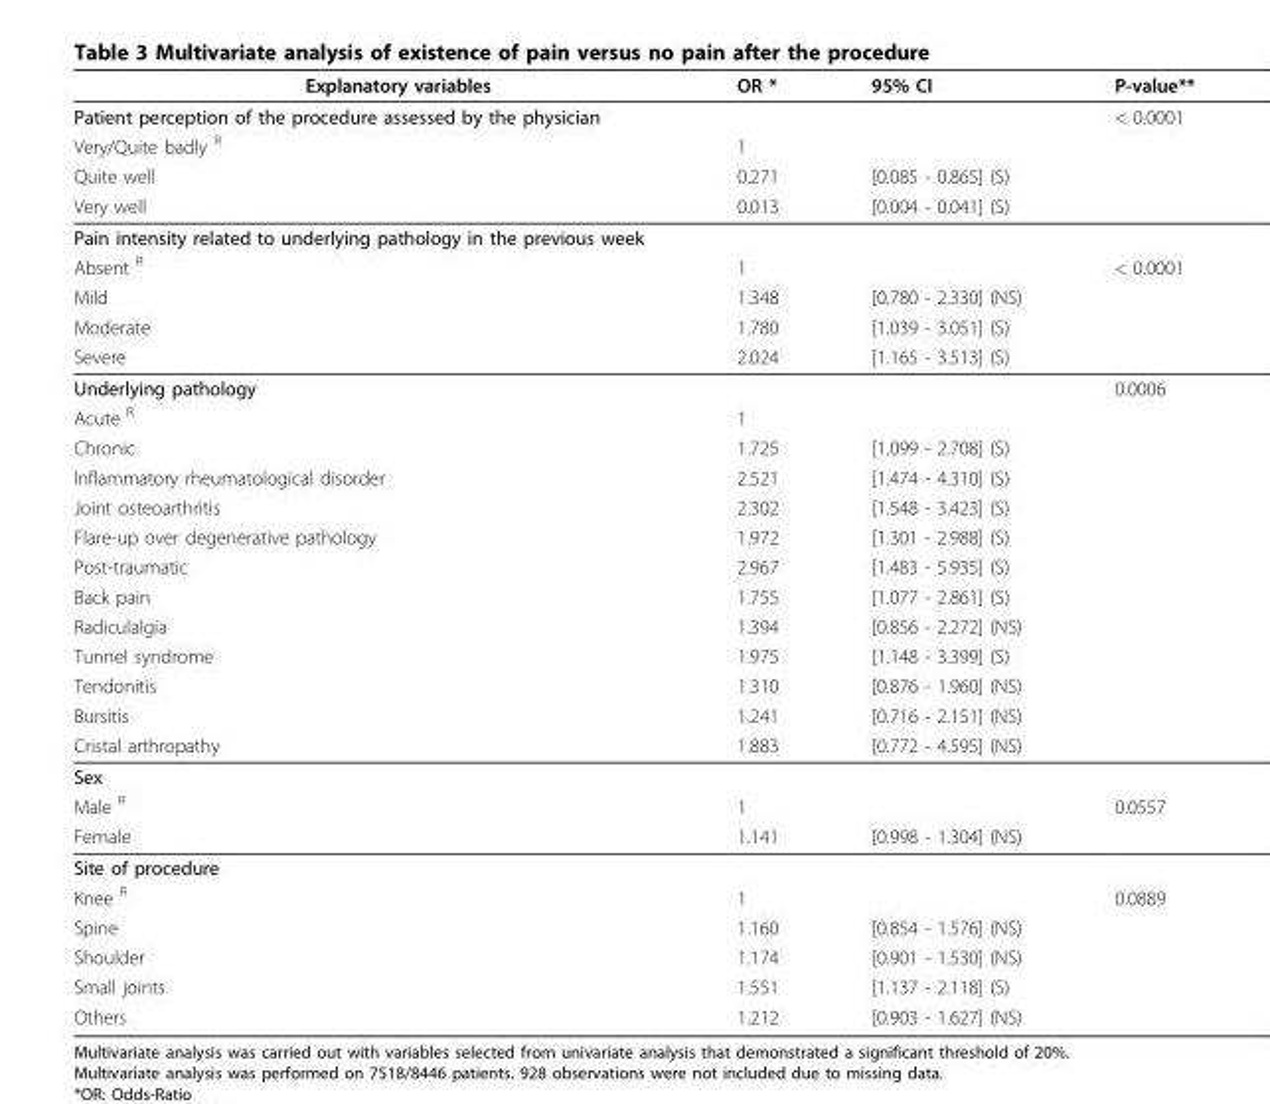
<table><thead><tr><td>Explanatory variables</td><td>OR *</td><td>95% CI</td><td>P-value**</td></tr></thead><tbody><tr><td>Patient perception of the procedure assessed by the physician</td><td></td><td></td><td>&lt; 0.0001</td></tr><tr><td>Very/Quite badly <sup>R</sup></td><td>1</td><td></td><td></td></tr><tr><td>Quite well</td><td>0.271</td><td>[0.085 - 0.865] (S)</td><td></td></tr><tr><td>Very well</td><td>0.013</td><td>[0.004 - 0.041] (S)</td><td></td></tr><tr><td colspan="4">Pain intensity related to underlying pathology in the previous week</td></tr><tr><td>Absent <sup>R</sup></td><td>1</td><td></td><td>&lt; 0.0001</td></tr><tr><td>Mild</td><td>1.348</td><td>[0.780 - 2.330] (NS)</td><td></td></tr><tr><td>Moderate</td><td>1.780</td><td>[1.039 - 3.051] (S)</td><td></td></tr><tr><td>Severe</td><td>2.024</td><td>[1.165 - 3.513] (S)</td><td></td></tr><tr><td>Underlying pathology</td><td></td><td></td><td>0.0006</td></tr><tr><td>Acute <sup>R</sup></td><td>1</td><td></td><td></td></tr><tr><td>Chronic</td><td>1.725</td><td>[1.099 - 2.708] (S)</td><td></td></tr><tr><td>Inflammatory rheumatological disorder</td><td>2.521</td><td>[1.474 - 4.310] (S)</td><td></td></tr><tr><td>Joint osteoarthritis</td><td>2.302</td><td>[1.548 - 3.423] (S)</td><td></td></tr><tr><td>Flare-up over degenerative pathology</td><td>1.972</td><td>[1.301 - 2.988] (S)</td><td></td></tr><tr><td>Post-traumatic</td><td>2.967</td><td>[1.483 - 5.935] (S)</td><td></td></tr><tr><td>Back pain</td><td>1.755</td><td>[1.077 - 2.861] (S)</td><td></td></tr><tr><td>Radiculalgia</td><td>1.394</td><td>[0.856 - 2.272] (NS)</td><td></td></tr><tr><td>Tunnel syndrome</td><td>1.975</td><td>[1.148 - 3.399] (S)</td><td></td></tr><tr><td>Tendonitis</td><td>1.310</td><td>[0.876 - 1.960] (NS)</td><td></td></tr><tr><td>Bursitis</td><td>1.241</td><td>[0.716 - 2.151] (NS)</td><td></td></tr><tr><td>Cristal arthropathy</td><td>1.883</td><td>[0.772 - 4.595] (NS)</td><td></td></tr><tr><td colspan="4">Sex</td></tr><tr><td>Male <sup>R</sup></td><td>1</td><td></td><td>0.0557</td></tr><tr><td>Female</td><td>1.141</td><td>[0.998 - 1.304] (NS)</td><td></td></tr><tr><td colspan="4">Site of procedure</td></tr><tr><td>Knee <sup>R</sup></td><td>1</td><td></td><td>0.0889</td></tr><tr><td>Spine</td><td>1.160</td><td>[0.854 - 1.576] (NS)</td><td></td></tr><tr><td>Shoulder</td><td>1.174</td><td>[0.901 - 1.530] (NS)</td><td></td></tr><tr><td>Small joints</td><td>1.551</td><td>[1.137 - 2.118] (S)</td><td></td></tr><tr><td>Others</td><td>1.212</td><td>[0.903 - 1.627] (NS)</td><td></td></tr></tbody></table>